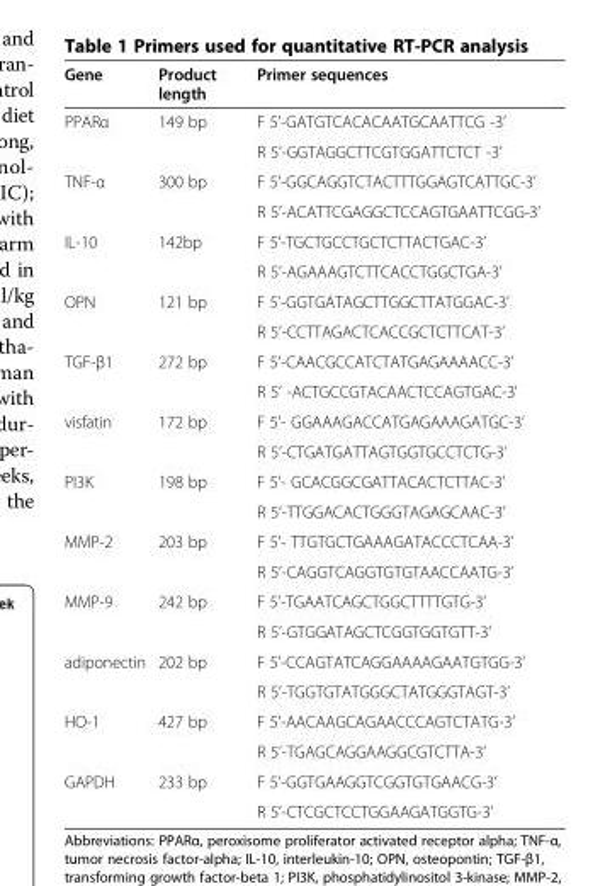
<table><thead><tr><td>Gene</td><td>Product length</td><td>Primer sequences</td></tr></thead><tbody><tr><td rowspan="2">PPARα</td><td rowspan="2">149 bp</td><td>F 5’-GATGTCACACAATGCAATTCG -3’</td></tr><tr><td>R 5’-GGTAGGCTTCGTGGATTCTCT -3’</td></tr><tr><td rowspan="2">TNF-α</td><td rowspan="2">300 bp</td><td>F 5’-GGCAGGTCTACTTTGGAGTCATTGC-3’</td></tr><tr><td>R 5’-ACATTCGAGGCTCCAGTGAATTCGG-3’</td></tr><tr><td rowspan="2">IL-10</td><td rowspan="2">142bp</td><td>F 5’-TGCTGCCTGCTCTTACTGAC-3’</td></tr><tr><td>R 5’-AGAAAGTCTTCACCTGGCTGA-3’</td></tr><tr><td rowspan="2">OPN</td><td rowspan="2">121 bp</td><td>F 5’-GGTGATAGCTTGGCTTATGGAC-3’</td></tr><tr><td>R 5’-CCTTAGACTCACCGCTCTTCAT-3’</td></tr><tr><td rowspan="2">TGF-β1</td><td rowspan="2">272 bp</td><td>F 5’-CAACGCCATCTATGAGAAAACC-3’</td></tr><tr><td>R 5’ -ACTGCCGTACAACTCCAGTGAC-3’</td></tr><tr><td rowspan="2">visfatin</td><td rowspan="2">172 bp</td><td>F 5’- GGAAAGACCATGAGAAAGATGC-3’</td></tr><tr><td>R 5’-CTGATGATTAGTGGTGCCTCTG-3’</td></tr><tr><td rowspan="2">PI3K</td><td rowspan="2">198 bp</td><td>F 5’- GCACGGCGATTACACTCTTAC-3’</td></tr><tr><td>R 5’-TTGGACACTGGGTAGAGCAAC-3’</td></tr><tr><td rowspan="2">MMP-2</td><td rowspan="2">203 bp</td><td>F 5’- TTGTGCTGAAAGATACCCTCAA-3’</td></tr><tr><td>R 5’-CAGGTCAGGTGTGTAACCAATG-3’</td></tr><tr><td rowspan="2">MMP-9</td><td rowspan="2">242 bp</td><td>F 5’-TGAATCAGCTGGCTTTTGTG-3’</td></tr><tr><td>R 5’-GTGGATAGCTCGGTGGTGTT-3’</td></tr><tr><td rowspan="2">adiponectin</td><td rowspan="2">202 bp</td><td>F 5’-CCAGTATCAGGAAAAGAATGTGG-3’</td></tr><tr><td>R 5’-TGGTGTATGGGCTATGGGTAGT-3’</td></tr><tr><td rowspan="2">HO-1</td><td rowspan="2">427 bp</td><td>F 5’-AACAAGCAGAACCCAGTCTATG-3’</td></tr><tr><td>R 5’-TGAGCAGGAAGGCGTCTTA-3’</td></tr><tr><td rowspan="2">GAPDH</td><td>233 bp</td><td>F 5’-GGTGAAGGTCGGTGTGAACG-3’</td></tr><tr><td></td><td>R 5’-CTCGCTCCTGGAAGATGGTG-3’</td></tr></tbody></table>